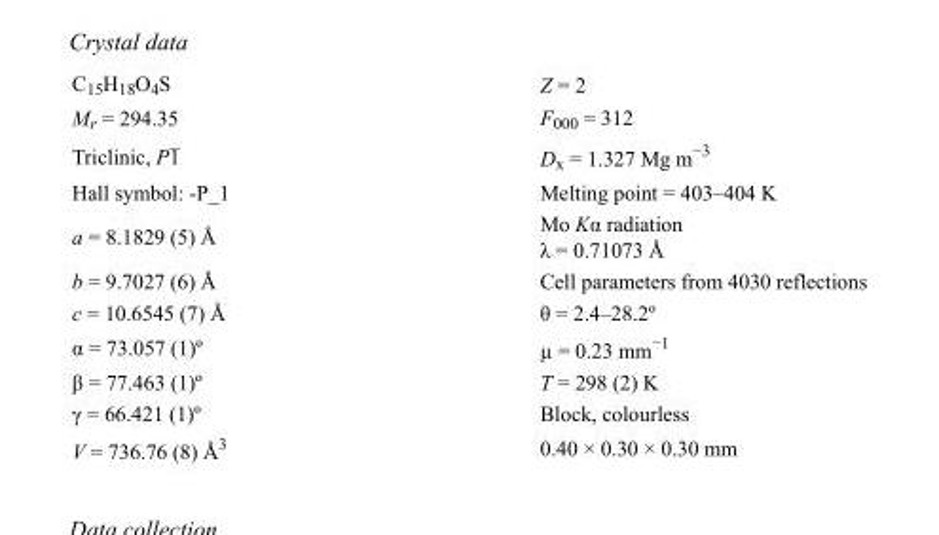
<table><tbody><tr><td>C<sub>15</sub>H<sub>18</sub>O<sub>4</sub>S</td><td>Z = 2</td></tr><tr><td>M<sub>r</sub> = 294.35</td><td>F000 = 312</td></tr><tr><td>Triclinic, P1</td><td>D<sub>x</sub> = 1.327 Mg m<sup>−3</sup></td></tr><tr><td>Hall symbol: -P_1</td><td>Melting point = 403–404 K</td></tr><tr><td>a = 8.1829 (5) Å</td><td>Mo Kα radiation λ = 0.71073 Å</td></tr><tr><td>b = 9.7027 (6) Å</td><td>Cell parameters from 4030 reflections</td></tr><tr><td>c = 10.6545 (7) Å</td><td>θ = 2.4–28.2º</td></tr><tr><td>α = 73.057 (1)º</td><td>µ = 0.23 mm<sup>−1</sup></td></tr><tr><td>β = 77.463 (1)º</td><td>T = 298 (2) K</td></tr><tr><td>γ = 66.421 (1)º</td><td>Block, colourless</td></tr><tr><td>V = 736.76 (8) Å<sup>3</sup></td><td>0.40 × 0.30 × 0.30 mm</td></tr></tbody></table>